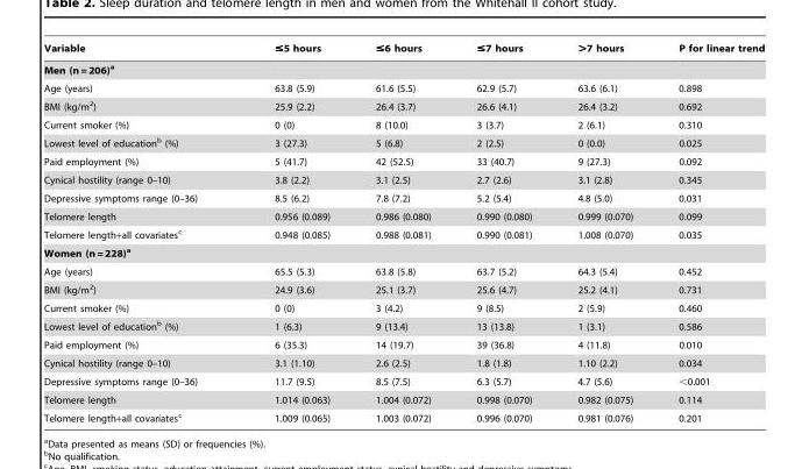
<table><thead><tr><td>Variable</td><td>≤5 hours</td><td>≤6 hours</td><td>≤7 hours</td><td>&gt;7 hours</td><td>P for linear trend</td></tr></thead><tbody><tr><td colspan="6">Men (n = 206)a</td></tr><tr><td>Age (years)</td><td>63.8 (5.9)</td><td>61.6 (5.5)</td><td>62.9 (5.7)</td><td>63.6 (6.1)</td><td>0.898</td></tr><tr><td>BMI (kg/m<sup>2</sup>)</td><td>25.9 (2.2)</td><td>26.4 (3.7)</td><td>26.6 (4.1)</td><td>26.4 (3.2)</td><td>0.692</td></tr><tr><td>Current smoker (%)</td><td>0 (0)</td><td>8 (10.0)</td><td>3 (3.7)</td><td>2 (6.1)</td><td>0.310</td></tr><tr><td>Lowest level of education<sup>b</sup> (%)</td><td>3 (27.3)</td><td>5 (6.8)</td><td>2 (2.5)</td><td>0 (0.0)</td><td>0.025</td></tr><tr><td>Paid employment (%)</td><td>5 (41.7)</td><td>42 (52.5)</td><td>33 (40.7)</td><td>9 (27.3)</td><td>0.092</td></tr><tr><td>Cynical hostility (range 0–10)</td><td>3.8 (2.2)</td><td>3.1 (2.5)</td><td>2.7 (2.6)</td><td>3.1 (2.8)</td><td>0.345</td></tr><tr><td>Depressive symptoms range (0–36)</td><td>8.5 (6.2)</td><td>7.8 (7.2)</td><td>5.2 (5.4)</td><td>4.8 (5.0)</td><td>0.031</td></tr><tr><td>Telomere length</td><td>0.956 (0.089)</td><td>0.986 (0.080)</td><td>0.990 (0.080)</td><td>0.999 (0.070)</td><td>0.099</td></tr><tr><td>Telomere length+all covariates<sup>c</sup></td><td>0.948 (0.085)</td><td>0.988 (0.081)</td><td>0.990 (0.081)</td><td>1.008 (0.070)</td><td>0.035</td></tr><tr><td colspan="6">Women (n = 228)a</td></tr><tr><td>Age (years)</td><td>65.5 (5.3)</td><td>63.8 (5.8)</td><td>63.7 (5.2)</td><td>64.3 (5.4)</td><td>0.452</td></tr><tr><td>BMI (kg/m<sup>2</sup>)</td><td>24.9 (3.6)</td><td>25.1 (3.7)</td><td>25.6 (4.7)</td><td>25.2 (4.1)</td><td>0.731</td></tr><tr><td>Current smoker (%)</td><td>0 (0)</td><td>3 (4.2)</td><td>9 (8.5)</td><td>2 (5.9)</td><td>0.460</td></tr><tr><td>Lowest level of education<sup>b</sup> (%)</td><td>1 (6.3)</td><td>9 (13.4)</td><td>13 (13.8)</td><td>1 (3.1)</td><td>0.586</td></tr><tr><td>Paid employment (%)</td><td>6 (35.3)</td><td>14 (19.7)</td><td>39 (36.8)</td><td>4 (11.8)</td><td>0.010</td></tr><tr><td>Cynical hostility (range 0–10)</td><td>3.1 (1.10)</td><td>2.6 (2.5)</td><td>1.8 (1.8)</td><td>1.10 (2.2)</td><td>0.034</td></tr><tr><td>Depressive symptoms range (0–36)</td><td>11.7 (9.5)</td><td>8.5 (7.5)</td><td>6.3 (5.7)</td><td>4.7 (5.6)</td><td>&lt;0.001</td></tr><tr><td>Telomere length</td><td>1.014 (0.063)</td><td>1.004 (0.072)</td><td>0.998 (0.070)</td><td>0.982 (0.075)</td><td>0.114</td></tr><tr><td>Telomere length+all covariates<sup>c</sup></td><td>1.009 (0.065)</td><td>1.003 (0.072)</td><td>0.996 (0.070)</td><td>0.981 (0.076)</td><td>0.201</td></tr></tbody></table>